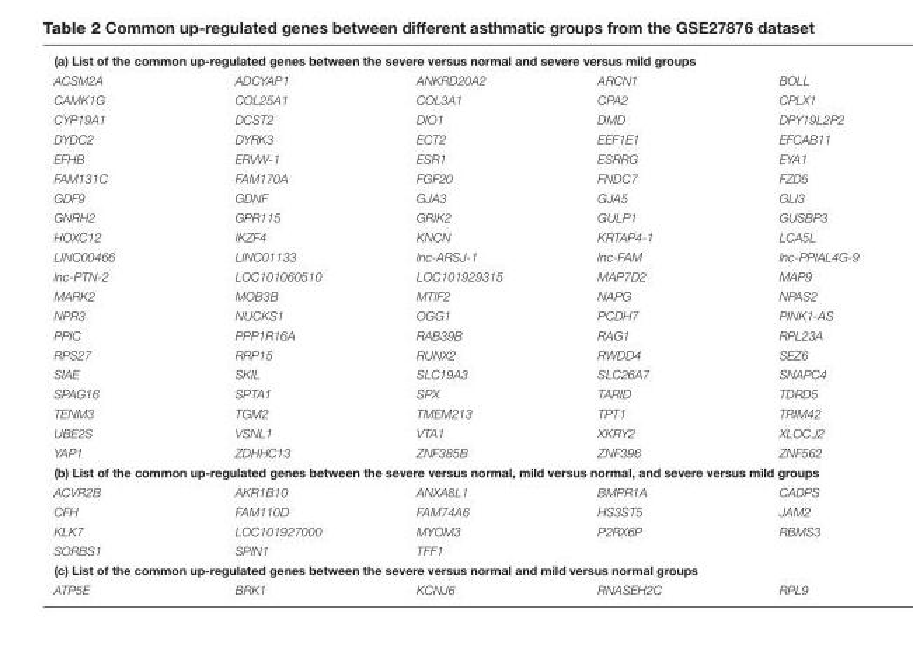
<table><tbody><tr><td colspan="5">(a) List of the common up-regulated genes between the severe versus normal and severe versus mild groups</td></tr><tr><td>ACSM2A</td><td>ADCYAP1</td><td>ANKRD20A2</td><td>ARCN1</td><td>BOLL</td></tr><tr><td>CAMK1G</td><td>COL25A1</td><td>COL3A1</td><td>CPA2</td><td>CPLX1</td></tr><tr><td>CYP19A1</td><td>DCST2</td><td>DIO1</td><td>DMD</td><td>DPY19L2P2</td></tr><tr><td>DYDC2</td><td>DYRK3</td><td>ECT2</td><td>EEF1E1</td><td>EFCAB11</td></tr><tr><td>EFHB</td><td>ERVW-1</td><td>ESR1</td><td>ESRRG</td><td>EYA1</td></tr><tr><td>FAM131C</td><td>FAM170A</td><td>FGF20</td><td>FNDC7</td><td>FZD5</td></tr><tr><td>GDF9</td><td>GDNF</td><td>GJA3</td><td>GJA5</td><td>GLI3</td></tr><tr><td>GNRH2</td><td>GPR115</td><td>GRIK2</td><td>GULP1</td><td>GUSBP3</td></tr><tr><td>HOXC12</td><td>IKZF4</td><td>KNCN</td><td>KRTAP4-1</td><td>LCA5L</td></tr><tr><td>LINC00466</td><td>LINC01133</td><td>lnc-ARSJ-1</td><td>lnc-FAM</td><td>lnc-PPIAL4G-9</td></tr><tr><td>lnc-PTN-2</td><td>LOC101060510</td><td>LOC101929315</td><td>MAP7D2</td><td>MAP9</td></tr><tr><td>MARK2</td><td>MOB3B</td><td>MTIF2</td><td>NAPG</td><td>NPAS2</td></tr><tr><td>NPR3</td><td>NUCKS1</td><td>OGG1</td><td>PCDH7</td><td>PINK1-AS</td></tr><tr><td>PPIC</td><td>PPP1R16A</td><td>RAB39B</td><td>RAG1</td><td>RPL23A</td></tr><tr><td>RPS27</td><td>RRP15</td><td>RUNX2</td><td>RWDD4</td><td>SEZ6</td></tr><tr><td>SIAE</td><td>SKIL</td><td>SLC19A3</td><td>SLC26A7</td><td>SNAPC4</td></tr><tr><td>SPAG16</td><td>SPTA1</td><td>SPX</td><td>TARID</td><td>TDRD5</td></tr><tr><td>TENM3</td><td>TGM2</td><td>TMEM213</td><td>TPT1</td><td>TRIM42</td></tr><tr><td>UBE2S</td><td>VSNL1</td><td>VTA1</td><td>XKRY2</td><td>XLOC l2</td></tr><tr><td>YAP1</td><td>ZDHHC13</td><td>ZNF385B</td><td>ZNF396</td><td>ZNF562</td></tr><tr><td colspan="5">(b) List of the common up-regulated genes between the severe versus normal, mild versus normal, and severe versus mild groups</td></tr><tr><td>ACVR2B</td><td>AKR1B10</td><td>ANXA8L1</td><td>BMPR1A</td><td>CADPS</td></tr><tr><td>CFH</td><td>FAM110D</td><td>FAM74A6</td><td>HS3ST5</td><td>JAM2</td></tr><tr><td>KLK7</td><td>LOC101927000</td><td>MYOM3</td><td>P2RX6P</td><td>RBMS3</td></tr><tr><td>SORBS1</td><td>SPIN1</td><td>TFF1</td><td></td><td></td></tr><tr><td colspan="5">(c) List of the common up-regulated genes between the severe versus normal and mild versus normal groups</td></tr><tr><td>ATP5E</td><td>BRK1</td><td>KCNJ6</td><td>RNASEH2C</td><td>RPL9</td></tr></tbody></table>